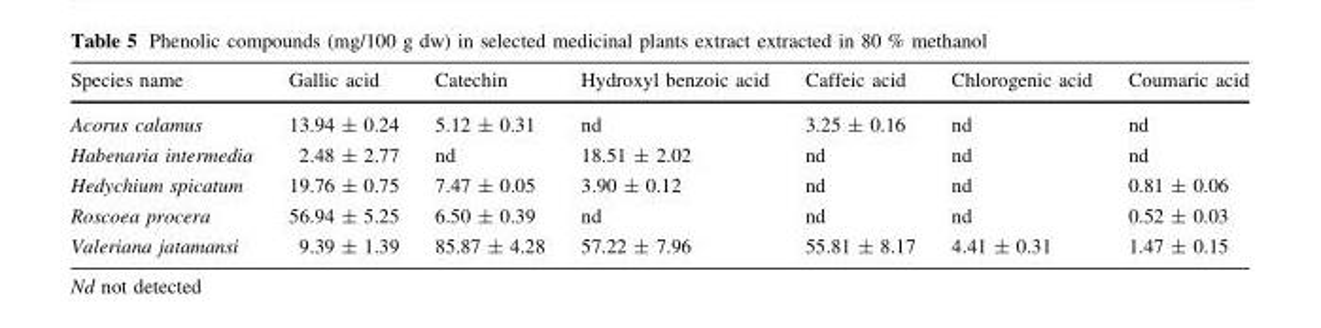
<table><thead><tr><td>Species name</td><td>Gallic acid</td><td>Catechin</td><td>Hydroxyl benzoic acid</td><td>Caffeic acid</td><td>Chlorogenic acid</td><td>Coumaric acid</td></tr></thead><tbody><tr><td>Acorus calamus</td><td>13.94 ± 0.24</td><td>5.12 ± 0.31</td><td>nd</td><td>3.25 ± 0.16</td><td>nd</td><td>nd</td></tr><tr><td>Habenaria intermedia</td><td>2.48 ± 2.77</td><td>nd</td><td>18.51 ± 2.02</td><td>nd</td><td>nd</td><td>nd</td></tr><tr><td>Hedychium spicatum</td><td>19.76 ± 0.75</td><td>7.47 ± 0.05</td><td>3.90 ± 0.12</td><td>nd</td><td>nd</td><td>0.81 ± 0.06</td></tr><tr><td>Roscoea procera</td><td>56.94 ± 5.25</td><td>6.50 ± 0.39</td><td>nd</td><td>nd</td><td>nd</td><td>0.52 ± 0.03</td></tr><tr><td>Valeriana jatamansi</td><td>9.39 ± 1.39</td><td>85.87 ± 4.28</td><td>57.22 ± 7.96</td><td>55.81 ± 8.17</td><td>4.41 ± 0.31</td><td>1.47 ± 0.15</td></tr></tbody></table>